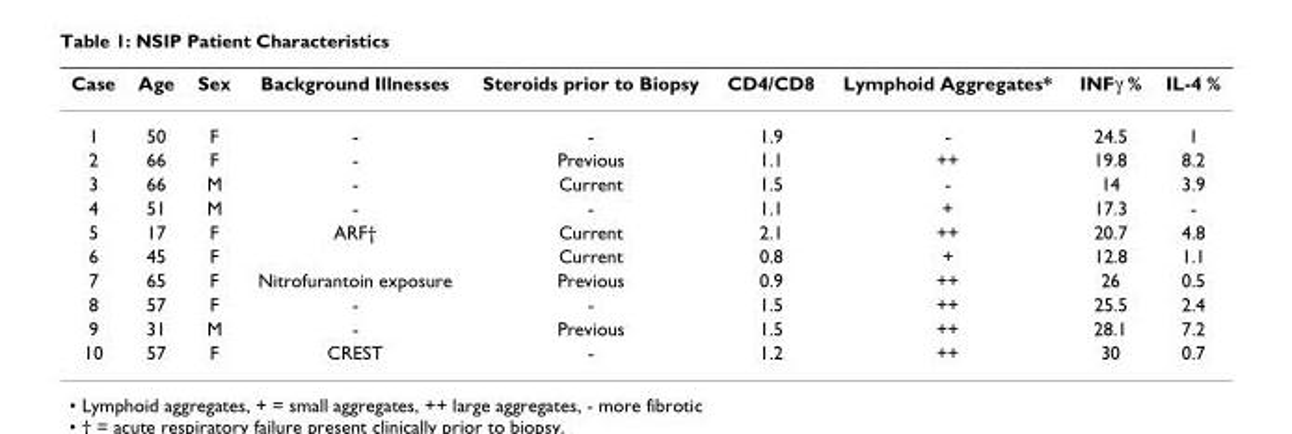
<table><thead><tr><td>Case</td><td>Age</td><td>Sex</td><td>Background Illnesses</td><td>Steroids prior to Biopsy</td><td>CD4/CD8</td><td>Lymphoid Aggregates*</td><td>INFγ %</td><td>IL-4 %</td></tr></thead><tbody><tr><td>1</td><td>50</td><td>F</td><td>-</td><td>-</td><td>1.9</td><td>-</td><td>24.5</td><td>1</td></tr><tr><td>2</td><td>66</td><td>F</td><td>-</td><td>Previous</td><td>1.1</td><td>++</td><td>19.8</td><td>8.2</td></tr><tr><td>3</td><td>66</td><td>M</td><td>-</td><td>Current</td><td>1.5</td><td>-</td><td>14</td><td>3.9</td></tr><tr><td>4</td><td>51</td><td>M</td><td>-</td><td>-</td><td>1.1</td><td>+</td><td>17.3</td><td>-</td></tr><tr><td>5</td><td>17</td><td>F</td><td>ARF†</td><td>Current</td><td>2.1</td><td>++</td><td>20.7</td><td>4.8</td></tr><tr><td>6</td><td>45</td><td>F</td><td></td><td>Current</td><td>0.8</td><td>+</td><td>12.8</td><td>1.1</td></tr><tr><td>7</td><td>65</td><td>F</td><td>Nitrofurantoin exposure</td><td>Previous</td><td>0.9</td><td>++</td><td>26</td><td>0.5</td></tr><tr><td>8</td><td>57</td><td>F</td><td>-</td><td>-</td><td>1.5</td><td>++</td><td>25.5</td><td>2.4</td></tr><tr><td>9</td><td>31</td><td>M</td><td>-</td><td>Previous</td><td>1.5</td><td>++</td><td>28.1</td><td>7.2</td></tr><tr><td>10</td><td>57</td><td>F</td><td>CREST</td><td>-</td><td>1.2</td><td>++</td><td>30</td><td>0.7</td></tr></tbody></table>